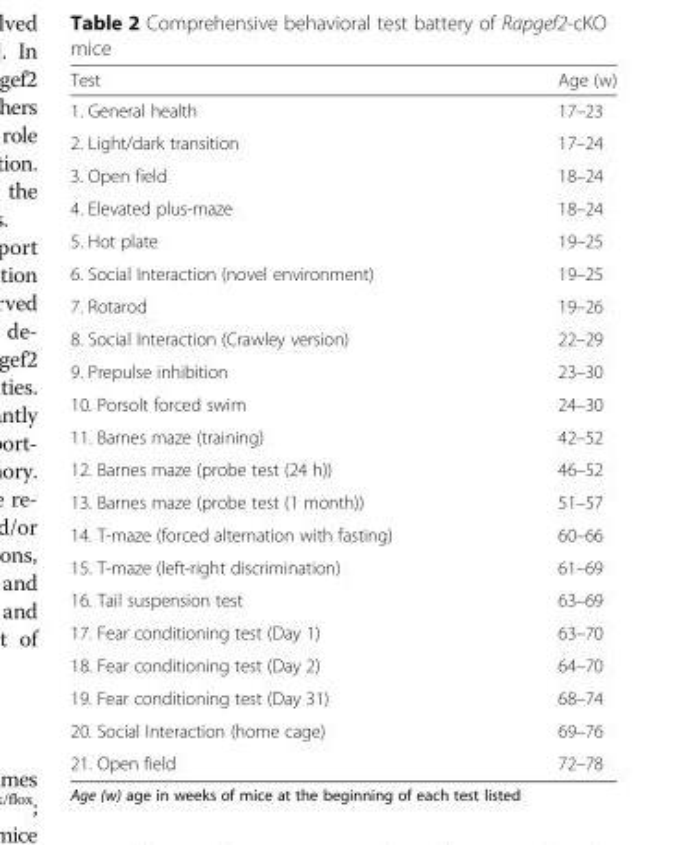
<table><thead><tr><td>Test</td><td>Age (w)</td></tr></thead><tbody><tr><td>1. General health</td><td>17–23</td></tr><tr><td>2. Light/dark transition</td><td>17–24</td></tr><tr><td>3. Open field</td><td>18–24</td></tr><tr><td>4. Elevated plus-maze</td><td>18–24</td></tr><tr><td>5. Hot plate</td><td>19–25</td></tr><tr><td>6. Social Interaction (novel environment)</td><td>19–25</td></tr><tr><td>7. Rotarod</td><td>19–26</td></tr><tr><td>8. Social Interaction (Crawley version)</td><td>22–29</td></tr><tr><td>9. Prepulse inhibition</td><td>23–30</td></tr><tr><td>10. Porsolt forced swim</td><td>24–30</td></tr><tr><td>11. Barnes maze (training)</td><td>42–52</td></tr><tr><td>12. Barnes maze (probe test (24 h))</td><td>46–52</td></tr><tr><td>13. Barnes maze (probe test (1 month))</td><td>51–57</td></tr><tr><td>14. T-maze (forced alternation with fasting)</td><td>60–66</td></tr><tr><td>15. T-maze (left-right discrimination)</td><td>61–69</td></tr><tr><td>16. Tail suspension test</td><td>63–69</td></tr><tr><td>17. Fear conditioning test (Day 1)</td><td>63–70</td></tr><tr><td>18. Fear conditioning test (Day 2)</td><td>64–70</td></tr><tr><td>19. Fear conditioning test (Day 31)</td><td>68–74</td></tr><tr><td>20. Social Interaction (home cage)</td><td>69–76</td></tr><tr><td>21. Open field</td><td>72–78</td></tr></tbody></table>